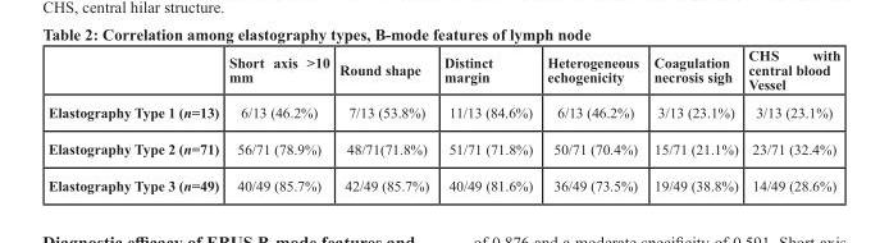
<table><thead><tr><td></td><td>Short axis &gt;10 mm</td><td>Round shape</td><td>Distinct margin</td><td>Heterogeneous echogenicity</td><td>Coagulation necrosis sigh</td><td>CHS with central blood Vessel</td></tr></thead><tbody><tr><td>Elastography Type 1 (n=13)</td><td>6/13 (46.2%)</td><td>7/13 (53.8%)</td><td>11/13 (84.6%)</td><td>6/13 (46.2%)</td><td>3/13 (23.1%)</td><td>3/13 (23.1%)</td></tr><tr><td>Elastography Type 2 (n=71)</td><td>56/71 (78.9%)</td><td>48/71(71.8%)</td><td>51/71 (71.8%)</td><td>50/71 (70.4%)</td><td>15/71 (21.1%)</td><td>23/71 (32.4%)</td></tr><tr><td>Elastography Type 3 (n=49)</td><td>40/49 (85.7%)</td><td>42/49 (85.7%)</td><td>40/49 (81.6%)</td><td>36/49 (73.5%)</td><td>19/49 (38.8%)</td><td>14/49 (28.6%)</td></tr></tbody></table>